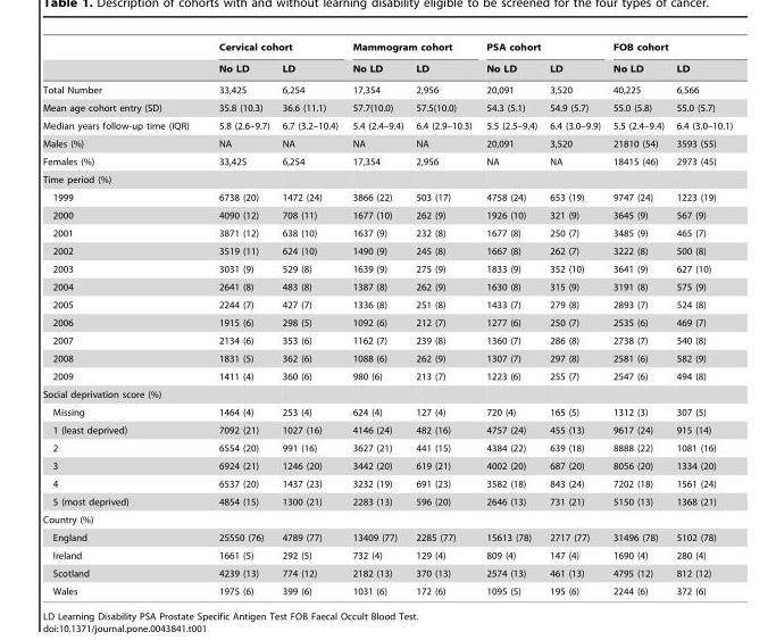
<table><thead><tr><td rowspan="2"></td><td colspan="2">Cervical cohort</td><td colspan="2">Mammogram cohort</td><td colspan="2">PSA cohort</td><td colspan="2">FOB cohort</td></tr><tr><td>No LD</td><td>LD</td><td>No LD</td><td>LD</td><td>No LD</td><td>LD</td><td>No LD</td><td>LD</td></tr></thead><tbody><tr><td>Total Number</td><td>33,425</td><td>6,254</td><td>17,354</td><td>2,956</td><td>20,091</td><td>3,520</td><td>40,225</td><td>6,566</td></tr><tr><td>Mean age cohort entry (SD)</td><td>35.8 (10.3)</td><td>36.6 (11.1)</td><td>57.7(10.0)</td><td>57.5(10.0)</td><td>54.3 (5.1)</td><td>54.9 (5.7)</td><td>55.0 (5.8)</td><td>55.0 (5.7)</td></tr><tr><td>Median years follow-up time (IQR)</td><td>5.8 (2.6–9.7)</td><td>6.7 (3.2–10.4)</td><td>5.4 (2.4–9.4)</td><td>6.4 (2.9–10.3)</td><td>5.5 (2.5–9.4)</td><td>6.4 (3.0–9.9)</td><td>5.5 (2.4–9.4)</td><td>6.4 (3.0–10.1)</td></tr><tr><td>Males (%)</td><td>NA</td><td>NA</td><td>NA</td><td>NA</td><td>20,091</td><td>3,520</td><td>21810 (54)</td><td>3593 (55)</td></tr><tr><td>Females (%)</td><td>33,425</td><td>6,254</td><td>17,354</td><td>2,956</td><td>NA</td><td>NA</td><td>18415 (46)</td><td>2973 (45)</td></tr><tr><td colspan="9">Time period (%)</td></tr><tr><td>1999</td><td>6738 (20)</td><td>1472 (24)</td><td>3866 (22)</td><td>503 (17)</td><td>4758 (24)</td><td>653 (19)</td><td>9747 (24)</td><td>1223 (19)</td></tr><tr><td>2000</td><td>4090 (12)</td><td>708 (11)</td><td>1677 (10)</td><td>262 (9)</td><td>1926 (10)</td><td>321 (9)</td><td>3645 (9)</td><td>567 (9)</td></tr><tr><td>2001</td><td>3871 (12)</td><td>638 (10)</td><td>1637 (9)</td><td>232 (8)</td><td>1677 (8)</td><td>250 (7)</td><td>3485 (9)</td><td>465 (7)</td></tr><tr><td>2002</td><td>3519 (11)</td><td>624 (10)</td><td>1490 (9)</td><td>245 (8)</td><td>1667 (8)</td><td>262 (7)</td><td>3222 (8)</td><td>500 (8)</td></tr><tr><td>2003</td><td>3031 (9)</td><td>529 (8)</td><td>1639 (9)</td><td>275 (9)</td><td>1833 (9)</td><td>352 (10)</td><td>3641 (9)</td><td>627 (10)</td></tr><tr><td>2004</td><td>2641 (8)</td><td>483 (8)</td><td>1387 (8)</td><td>262 (9)</td><td>1630 (8)</td><td>315 (9)</td><td>3191 (8)</td><td>575 (9)</td></tr><tr><td>2005</td><td>2244 (7)</td><td>427 (7)</td><td>1336 (8)</td><td>251 (8)</td><td>1433 (7)</td><td>279 (8)</td><td>2893 (7)</td><td>524 (8)</td></tr><tr><td>2006</td><td>1915 (6)</td><td>298 (5)</td><td>1092 (6)</td><td>212 (7)</td><td>1277 (6)</td><td>250 (7)</td><td>2535 (6)</td><td>469 (7)</td></tr><tr><td>2007</td><td>2134 (6)</td><td>353 (6)</td><td>1162 (7)</td><td>239 (8)</td><td>1360 (7)</td><td>286 (8)</td><td>2738 (7)</td><td>540 (8)</td></tr><tr><td>2008</td><td>1831 (5)</td><td>362 (6)</td><td>1088 (6)</td><td>262 (9)</td><td>1307 (7)</td><td>297 (8)</td><td>2581 (6)</td><td>582 (9)</td></tr><tr><td>2009</td><td>1411 (4)</td><td>360 (6)</td><td>980 (6)</td><td>213 (7)</td><td>1223 (6)</td><td>255 (7)</td><td>2547 (6)</td><td>494 (8)</td></tr><tr><td colspan="9">Social deprivation score (%)</td></tr><tr><td>Missing</td><td>1464 (4)</td><td>253 (4)</td><td>624 (4)</td><td>127 (4)</td><td>720 (4)</td><td>165 (5)</td><td>1312 (3)</td><td>307 (5)</td></tr><tr><td>1 (least deprived)</td><td>7092 (21)</td><td>1027 (16)</td><td>4146 (24)</td><td>482 (16)</td><td>4757 (24)</td><td>455 (13)</td><td>9617 (24)</td><td>915 (14)</td></tr><tr><td>2</td><td>6554 (20)</td><td>991 (16)</td><td>3627 (21)</td><td>441 (15)</td><td>4384 (22)</td><td>639 (18)</td><td>8888 (22)</td><td>1081 (16)</td></tr><tr><td>3</td><td>6924 (21)</td><td>1246 (20)</td><td>3442 (20)</td><td>619 (21)</td><td>4002 (20)</td><td>687 (20)</td><td>8056 (20)</td><td>1334 (20)</td></tr><tr><td>4</td><td>6537 (20)</td><td>1437 (23)</td><td>3232 (19)</td><td>691 (23)</td><td>3582 (18)</td><td>843 (24)</td><td>7202 (18)</td><td>1561 (24)</td></tr><tr><td>5 (most deprived)</td><td>4854 (15)</td><td>1300 (21)</td><td>2283 (13)</td><td>596 (20)</td><td>2646 (13)</td><td>731 (21)</td><td>5150 (13)</td><td>1368 (21)</td></tr><tr><td colspan="9">Country (%)</td></tr><tr><td>England</td><td>25550 (76)</td><td>4789 (77)</td><td>13409 (77)</td><td>2285 (77)</td><td>15613 (78)</td><td>2717 (77)</td><td>31496 (78)</td><td>5102 (78)</td></tr><tr><td>Ireland</td><td>1661 (5)</td><td>292 (5)</td><td>732 (4)</td><td>129 (4)</td><td>809 (4)</td><td>147 (4)</td><td>1690 (4)</td><td>280 (4)</td></tr><tr><td>Scotland</td><td>4239 (13)</td><td>774 (12)</td><td>2182 (13)</td><td>370 (13)</td><td>2574 (13)</td><td>461 (13)</td><td>4795 (12)</td><td>812 (12)</td></tr><tr><td>Wales</td><td>1975 (6)</td><td>399 (6)</td><td>1031 (6)</td><td>172 (6)</td><td>1095 (5)</td><td>195 (6)</td><td>2244 (6)</td><td>372 (6)</td></tr></tbody></table>